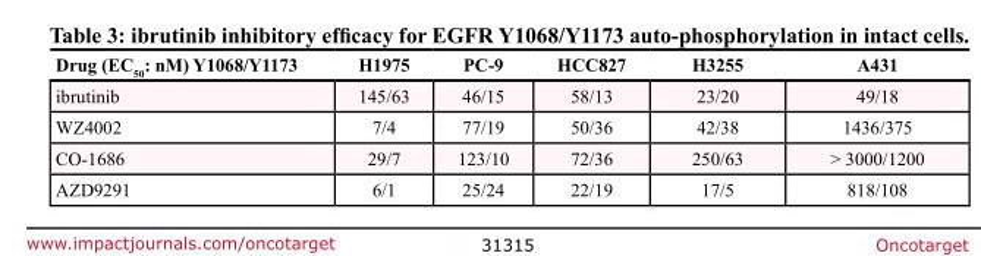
<table><thead><tr><td>Drug (EC<sub>50</sub>: nM) Y1068/Y1173</td><td>H1975</td><td>PC-9</td><td>HCC827</td><td>H3255</td><td>A431</td></tr></thead><tbody><tr><td>ibrutinib</td><td>145/63</td><td>46/15</td><td>58/13</td><td>23/20</td><td>49/18</td></tr><tr><td>WZ4002</td><td>7/4</td><td>77/19</td><td>50/36</td><td>42/38</td><td>1436/375</td></tr><tr><td>CO-1686</td><td>29/7</td><td>123/10</td><td>72/36</td><td>250/63</td><td>&gt; 3000/1200</td></tr><tr><td>AZD9291</td><td>6/1</td><td>25/24</td><td>22/19</td><td>17/5</td><td>818/108</td></tr></tbody></table>